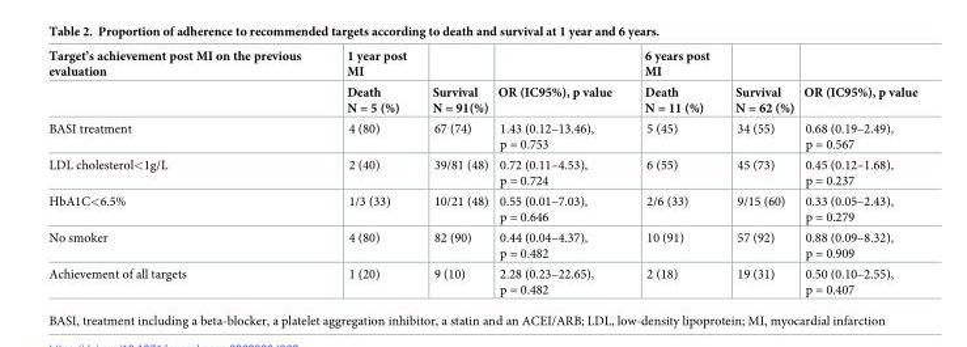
<table><thead><tr><td rowspan="2">Target’s achievement post MI on the previous evaluation</td><td rowspan="2">1 year post MI Death N = 5 (%)</td><td rowspan="2">Survival N = 91(%)</td><td rowspan="2">OR (IC95%), p value</td><td rowspan="2">6 years post MI Death N = 11 (%)</td><td rowspan="2">Survival N = 62 (%)</td><td rowspan="2">OR (IC95%), p value</td></tr><tr></tr></thead><tbody><tr><td>BASI treatment</td><td>4 (80)</td><td>67 (74)</td><td>1.43 (0.12–13.46), p = 0.753</td><td>5 (45)</td><td>34 (55)</td><td>0.68 (0.19–2.49), p = 0.567</td></tr><tr><td>LDL cholesterol&lt;1g/L</td><td>2 (40)</td><td>39/81 (48)</td><td>0.72 (0.11–4.53), p = 0.724</td><td>6 (55)</td><td>45 (73)</td><td>0.45 (0.12–1.68), p = 0.237</td></tr><tr><td>HbA1C&lt;6.5%</td><td>1/3 (33)</td><td>10/21 (48)</td><td>0.55 (0.01–7.03), p = 0.646</td><td>2/6 (33)</td><td>9/15 (60)</td><td>0.33 (0.05–2.43), p = 0.279</td></tr><tr><td>No smoker</td><td>4 (80)</td><td>82 (90)</td><td>0.44 (0.04–4.37), p = 0.482</td><td>10 (91)</td><td>57 (92)</td><td>0.88 (0.09–8.32), p = 0.909</td></tr><tr><td>Achievement of all targets</td><td>1 (20)</td><td>9 (10)</td><td>2.28 (0.23–22.65), p = 0.482</td><td>2 (18)</td><td>19 (31)</td><td>0.50 (0.10–2.55), p = 0.407</td></tr></tbody></table>